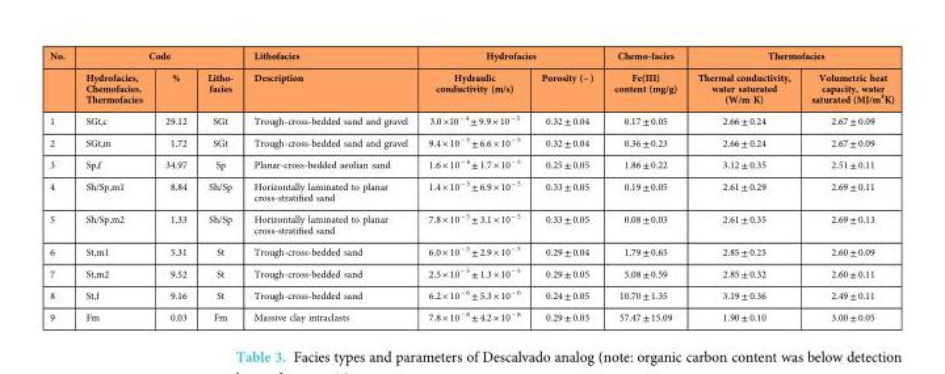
<table><thead><tr><td rowspan="2">No.</td><td colspan="3">Code</td><td rowspan="2">Lithofacies Description</td><td colspan="2">Hydrofacies</td><td rowspan="2">Chemo-facies Fe(III) content (mg/g)</td><td colspan="2">Thermofacies</td></tr><tr><td>Hydrofacies, Chemofacies, Thermofacies</td><td>%</td><td>Litho- facies</td><td>Hydraulic conductivity (m/s)</td><td>Porosity (− )</td><td>Thermal conductivity, water saturated (W/m K)</td><td>Volumetric heat capacity, water saturated (MJ/m<sup>3</sup>K)</td></tr></thead><tbody><tr><td>1</td><td>SGt,c</td><td>29.12</td><td>SGt</td><td>Trough-cross-bedded sand and gravel</td><td>3.0 ×10 <sup>− 4</sup> ± 9.9 × 10 <sup>− 5</sup></td><td>0.32 ± 0.04</td><td>0.17 ± 0.05</td><td>2.66 ± 0.24</td><td>2.67 ± 0.09</td></tr><tr><td>2</td><td>SGt,m</td><td>1.72</td><td>SGt</td><td>Trough-cross-bedded sand and gravel</td><td>9.4 × 10 <sup>− 5</sup> ± 6.6 × 10 <sup>− 5</sup></td><td>0.32 ± 0.04</td><td>0.36 ± 0.23</td><td>2.66 ± 0.24</td><td>2.67 ± 0.09</td></tr><tr><td>3</td><td>Sp,f</td><td>34.97</td><td>Sp</td><td>Planar-cross-bedded aeolian sand</td><td>1.6 × 10 <sup>− 4</sup> ± 1.7 × 10 <sup>− 5</sup></td><td>0.25 ± 0.05</td><td>1.86 ± 0.22</td><td>3.12 ± 0.35</td><td>2.51 ± 0.11</td></tr><tr><td>4</td><td>Sh/Sp,m1</td><td>8.84</td><td>Sh/Sp</td><td>Horizontally laminated to planar cross-stratified sand</td><td>1.4 × 10 <sup>− 3</sup> ± 6.9 × 10 <sup>− 5</sup></td><td>0.33 ± 0.05</td><td>0.19 ± 0.05</td><td>2.61 ± 0.29</td><td>2.69 ± 0.11</td></tr><tr><td>5</td><td>Sh/Sp,m2</td><td>1.33</td><td>Sh/Sp</td><td>Horizontally laminated to planar cross-stratified sand</td><td>7.8 × 10 <sup>− 5</sup> ± 3.1 × 10 <sup>− 5</sup></td><td>0.33 ± 0.05</td><td>0.08 ± 0.03</td><td>2.61 ± 0.35</td><td>2.69 ± 0.13</td></tr><tr><td>6</td><td>St,m1</td><td>5.31</td><td>St</td><td>Trough-cross-bedded sand</td><td>6.0 × 10 <sup>− 5</sup> ± 2.9 × 10 <sup>− 5</sup></td><td>0.29 ± 0.04</td><td>1.79 ± 0.65</td><td>2.85 ± 0.25</td><td>2.60 ± 0.09</td></tr><tr><td>7</td><td>St,m2</td><td>9.52</td><td>St</td><td>Trough-cross-bedded sand</td><td>2.5 × 10 <sup>− 5</sup> ± 1.3 × 10 <sup>− 5</sup></td><td>0.29 ± 0.05</td><td>5.08 ± 0.59</td><td>2.85 ± 0.32</td><td>2.60 ± 0.11</td></tr><tr><td>8</td><td>St,f</td><td>9.16</td><td>St</td><td>Trough-cross-bedded sand</td><td>6.2 × 10 <sup>− 6</sup> ± 5.3 × 10 <sup>− 6</sup></td><td>0.24 ± 0.05</td><td>10.70 ± 1.35</td><td>3.19 ± 0.36</td><td>2.49 ± 0.11</td></tr><tr><td>9</td><td>Fm</td><td>0.03</td><td>Fm</td><td>Massive clay intraclasts</td><td>7.8 × 10 <sup>− 8</sup> ± 4.2 × 10 <sup>− 8</sup></td><td>0.29 ± 0.03</td><td>57.47 ± 15.09</td><td>1.90 ± 0.10</td><td>3.00 ± 0.05</td></tr></tbody></table>